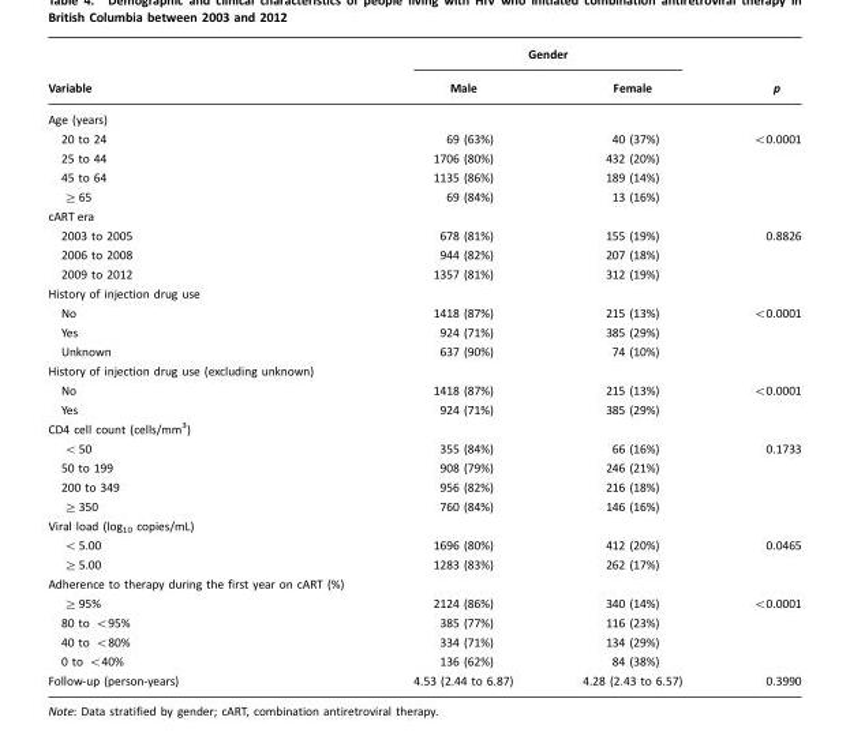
<table><thead><tr><td rowspan="2">Variable</td><td colspan="2">Gender</td><td rowspan="2">p</td></tr><tr><td>Male</td><td>Female</td></tr></thead><tbody><tr><td colspan="4">Age (years)</td></tr><tr><td>20 to 24</td><td>69 (63%)</td><td>40 (37%)</td><td>&lt;0.0001</td></tr><tr><td>25 to 44</td><td>1706 (80%)</td><td>432 (20%)</td><td></td></tr><tr><td>45 to 64</td><td>1135 (86%)</td><td>189 (14%)</td><td></td></tr><tr><td>≥65</td><td>69 (84%)</td><td>13 (16%)</td><td></td></tr><tr><td colspan="4">cART era</td></tr><tr><td>2003 to 2005</td><td>678 (81%)</td><td>155 (19%)</td><td>0.8826</td></tr><tr><td>2006 to 2008</td><td>944 (82%)</td><td>207 (18%)</td><td></td></tr><tr><td>2009 to 2012</td><td>1357 (81%)</td><td>312 (19%)</td><td></td></tr><tr><td colspan="4">History of injection drug use</td></tr><tr><td>No</td><td>1418 (87%)</td><td>215 (13%)</td><td>&lt;0.0001</td></tr><tr><td>Yes</td><td>924 (71%)</td><td>385 (29%)</td><td></td></tr><tr><td>Unknown</td><td>637 (90%)</td><td>74 (10%)</td><td></td></tr><tr><td colspan="4">History of injection drug use (excluding unknown)</td></tr><tr><td>No</td><td>1418 (87%)</td><td>215 (13%)</td><td>&lt;0.0001</td></tr><tr><td>Yes</td><td>924 (71%)</td><td>385 (29%)</td><td></td></tr><tr><td colspan="4">CD4 cell count (cells/mm<sup>3</sup>)</td></tr><tr><td>&lt;50</td><td>355 (84%)</td><td>66 (16%)</td><td>0.1733</td></tr><tr><td>50 to 199</td><td>908 (79%)</td><td>246 (21%)</td><td></td></tr><tr><td>200 to 349</td><td>956 (82%)</td><td>216 (18%)</td><td></td></tr><tr><td>≥350</td><td>760 (84%)</td><td>146 (16%)</td><td></td></tr><tr><td colspan="4">Viral load (log<sub>10</sub> copies/mL)</td></tr><tr><td>&lt;5.00</td><td>1696 (80%)</td><td>412 (20%)</td><td>0.0465</td></tr><tr><td>≥5.00</td><td>1283 (83%)</td><td>262 (17%)</td><td></td></tr><tr><td colspan="4">Adherence to therapy during the first year on cART (%)</td></tr><tr><td>≥95%</td><td>2124 (86%)</td><td>340 (14%)</td><td>&lt;0.0001</td></tr><tr><td>80 to &lt;95%</td><td>385 (77%)</td><td>116 (23%)</td><td></td></tr><tr><td>40 to &lt;80%</td><td>334 (71%)</td><td>134 (29%)</td><td></td></tr><tr><td>0 to &lt;40%</td><td>136 (62%)</td><td>84 (38%)</td><td></td></tr><tr><td>Follow-up (person-years)</td><td>4.53 (2.44 to 6.87)</td><td>4.28 (2.43 to 6.57)</td><td>0.3990</td></tr></tbody></table>